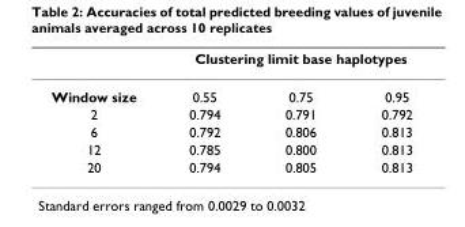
<table><thead><tr><td rowspan="2">Window size</td><td colspan="3">Clustering limit base haplotypes</td></tr><tr><td>0.55</td><td>0.75</td><td>0.95</td></tr></thead><tbody><tr><td>2</td><td>0.794</td><td>0.791</td><td>0.792</td></tr><tr><td>6</td><td>0.792</td><td>0.806</td><td>0.813</td></tr><tr><td>12</td><td>0.785</td><td>0.800</td><td>0.813</td></tr><tr><td>20</td><td>0.794</td><td>0.805</td><td>0.813</td></tr></tbody></table>